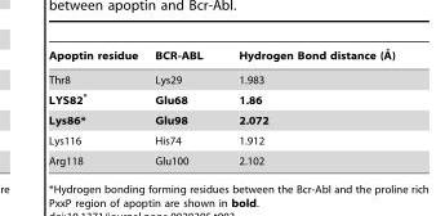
<table><thead><tr><td>Apoptin residue</td><td>BCR-ABL</td><td>Hydrogen Bond distance (A˚ )</td></tr></thead><tbody><tr><td>Thr8</td><td>Lys29</td><td>1.983</td></tr><tr><td>LYS82*</td><td>Glu68</td><td>1.86</td></tr><tr><td>Lys86*</td><td>Glu98</td><td>2.072</td></tr><tr><td>Lys116</td><td>His74</td><td>1.912</td></tr><tr><td>Arg118</td><td>Glu100</td><td>2.102</td></tr></tbody></table>